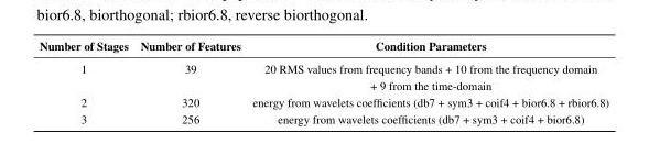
<table><thead><tr><td>Number of Stages</td><td>Number of Features</td><td>Condition Parameters</td></tr></thead><tbody><tr><td rowspan="2">1</td><td>39</td><td>20 RMS values from frequency bands + 10 from the frequency domain</td></tr><tr><td></td><td>+ 9 from the time-domain</td></tr><tr><td>2</td><td>320</td><td>energy from wavelets coefficients (db7 + sym3 + coif4 + bior6.8 + rbior6.8)</td></tr><tr><td>3</td><td>256</td><td>energy from wavelets coefficients (db7 + sym3 + coif4 + bior6.8)</td></tr></tbody></table>